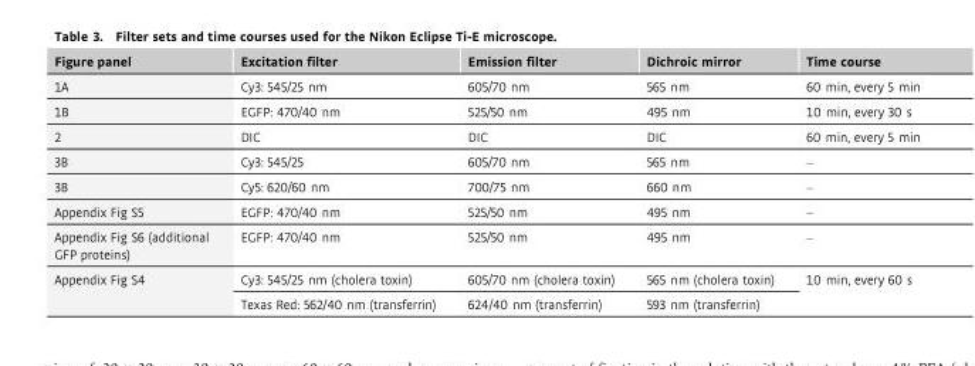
<table><thead><tr><td>Figure panel</td><td>Excitation filter</td><td>Emission filter</td><td>Dichroic mirror</td><td>Time course</td></tr></thead><tbody><tr><td>1A</td><td>Cy3: 545/25 nm</td><td>605/70 nm</td><td>565 nm</td><td>60 min, every 5 min</td></tr><tr><td>1B</td><td>EGFP: 470/40 nm</td><td>525/50 nm</td><td>495 nm</td><td>10 min, every 30 s</td></tr><tr><td>2</td><td>DIC</td><td>DIC</td><td>DIC</td><td>60 min, every 5 min</td></tr><tr><td>3B</td><td>Cy3: 545/25</td><td>605/70 nm</td><td>565 nm</td><td>–</td></tr><tr><td>3B</td><td>Cy5: 620/60 nm</td><td>700/75 nm</td><td>660 nm</td><td>–</td></tr><tr><td>Appendix Fig S5</td><td>EGFP: 470/40 nm</td><td>525/50 nm</td><td>495 nm</td><td>–</td></tr><tr><td>Appendix Fig S6 (additional GFP proteins)</td><td>EGFP: 470/40 nm</td><td>525/50 nm</td><td>495 nm</td><td>–</td></tr><tr><td rowspan="2">Appendix Fig S4</td><td>Cy3: 545/25 nm (cholera toxin)</td><td>605/70 nm (cholera toxin)</td><td>565 nm (cholera toxin)</td><td rowspan="2">10 min, every 60 s</td></tr><tr><td>Texas Red: 562/40 nm (transferrin)</td><td>624/40 nm (transferrin)</td><td>593 nm (transferrin)</td></tr></tbody></table>